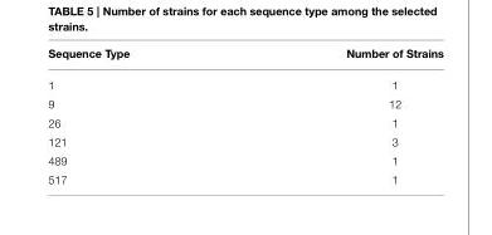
<table><thead><tr><td>Sequence Type</td><td>Number of Strains</td></tr></thead><tbody><tr><td>1</td><td>1</td></tr><tr><td>9</td><td>12</td></tr><tr><td>26</td><td>1</td></tr><tr><td>121</td><td>3</td></tr><tr><td>489</td><td>1</td></tr><tr><td>517</td><td>1</td></tr></tbody></table>